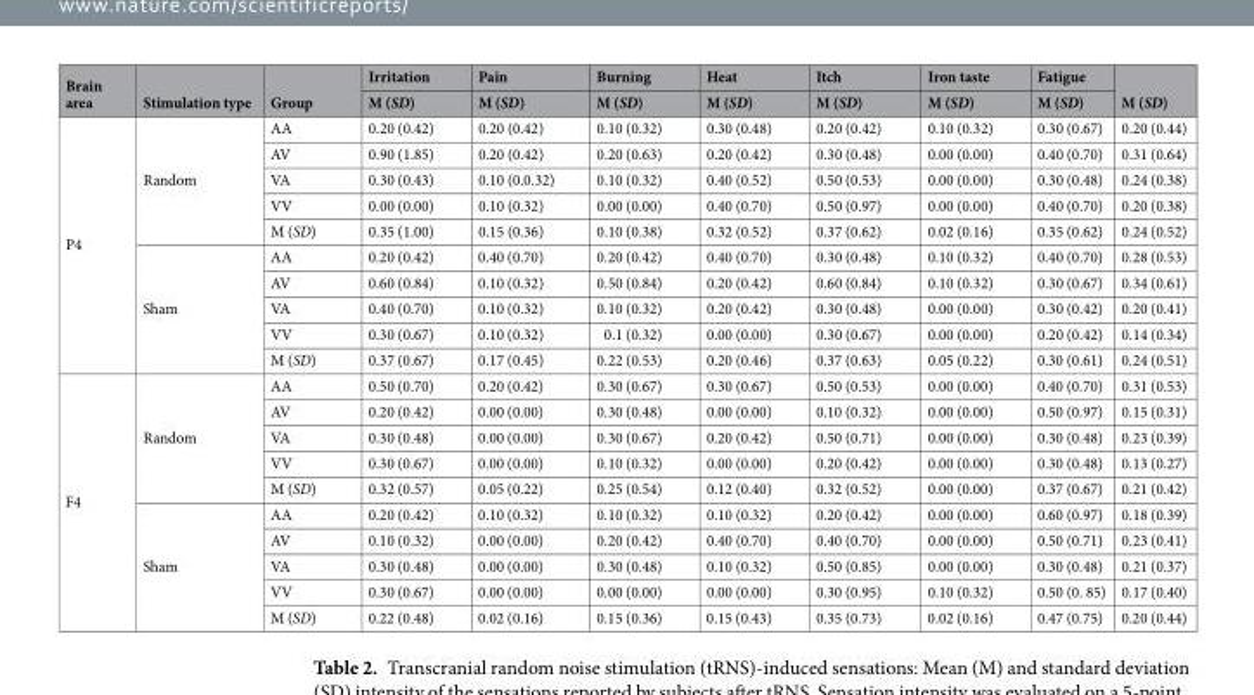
<table><thead><tr><td rowspan="2">Brain area</td><td rowspan="2">Stimulation type</td><td rowspan="2">Group</td><td rowspan="2">Irritation M (SD)</td><td rowspan="2">Pain M (SD)</td><td rowspan="2">Burning M (SD)</td><td rowspan="2">Heat M (SD)</td><td rowspan="2">Itch M (SD)</td><td rowspan="2">Iron taste M (SD)</td><td rowspan="2">Fatigue M (SD)</td><td rowspan="2">M (SD)</td></tr><tr></tr></thead><tbody><tr><td rowspan="10">P4</td><td rowspan="5">Random</td><td>AA</td><td>0.20 (0.42)</td><td>0.20 (0.42)</td><td>0.10 (0.32)</td><td>0.30 (0.48)</td><td>0.20 (0.42)</td><td>0.10 (0.32)</td><td>0.30 (0.67)</td><td>0.20 (0.44)</td></tr><tr><td>AV</td><td>0.90 (1.85)</td><td>0.20 (0.42)</td><td>0.20 (0.63)</td><td>0.20 (0.42)</td><td>0.30 (0.48)</td><td>0.00 (0.00)</td><td>0.40 (0.70)</td><td>0.31 (0.64)</td></tr><tr><td>VA</td><td>0.30 (0.43)</td><td>0.10 (0.0.32)</td><td>0.10 (0.32)</td><td>0.40 (0.52)</td><td>0.50 (0.53)</td><td>0.00 (0.00)</td><td>0.30 (0.48)</td><td>0.24 (0.38)</td></tr><tr><td>VV</td><td>0.00 (0.00)</td><td>0.10 (0.32)</td><td>0.00 (0.00)</td><td>0.40 (0.70)</td><td>0.50 (0.97)</td><td>0.00 (0.00)</td><td>0.40 (0.70)</td><td>0.20 (0.38)</td></tr><tr><td>M (SD)</td><td>0.35 (1.00)</td><td>0.15 (0.36)</td><td>0.10 (0.38)</td><td>0.32 (0.52)</td><td>0.37 (0.62)</td><td>0.02 (0.16)</td><td>0.35 (0.62)</td><td>0.24 (0.52)</td></tr><tr><td rowspan="5">Sham</td><td>AA</td><td>0.20 (0.42)</td><td>0.40 (0.70)</td><td>0.20 (0.42)</td><td>0.40 (0.70)</td><td>0.30 (0.48)</td><td>0.10 (0.32)</td><td>0.40 (0.70)</td><td>0.28 (0.53)</td></tr><tr><td>AV</td><td>0.60 (0.84)</td><td>0.10 (0.32)</td><td>0.50 (0.84)</td><td>0.20 (0.42)</td><td>0.60 (0.84)</td><td>0.10 (0.32)</td><td>0.30 (0.67)</td><td>0.34 (0.61)</td></tr><tr><td>VA</td><td>0.40 (0.70)</td><td>0.10 (0.32)</td><td>0.10 (0.32)</td><td>0.20 (0.42)</td><td>0.30 (0.48)</td><td>0.00 (0.00)</td><td>0.30 (0.42)</td><td>0.20 (0.41)</td></tr><tr><td>VV</td><td>0.30 (0.67)</td><td>0.10 (0.32)</td><td>0.1 (0.32)</td><td>0.00 (0.00)</td><td>0.30 (0.67)</td><td>0.00 (0.00)</td><td>0.20 (0.42)</td><td>0.14 (0.34)</td></tr><tr><td>M (SD)</td><td>0.37 (0.67)</td><td>0.17 (0.45)</td><td>0.22 (0.53)</td><td>0.20 (0.46)</td><td>0.37 (0.63)</td><td>0.05 (0.22)</td><td>0.30 (0.61)</td><td>0.24 (0.51)</td></tr><tr><td rowspan="10">F4</td><td rowspan="5">Random</td><td>AA</td><td>0.50 (0.70)</td><td>0.20 (0.42)</td><td>0.30 (0.67)</td><td>0.30 (0.67)</td><td>0.50 (0.53)</td><td>0.00 (0.00)</td><td>0.40 (0.70)</td><td>0.31 (0.53)</td></tr><tr><td>AV</td><td>0.20 (0.42)</td><td>0.00 (0.00)</td><td>0.30 (0.48)</td><td>0.00 (0.00)</td><td>0.10 (0.32)</td><td>0.00 (0.00)</td><td>0.50 (0.97)</td><td>0.15 (0.31)</td></tr><tr><td>VA</td><td>0.30 (0.48)</td><td>0.00 (0.00)</td><td>0.30 (0.67)</td><td>0.20 (0.42)</td><td>0.50 (0.71)</td><td>0.00 (0.00)</td><td>0.30 (0.48)</td><td>0.23 (0.39)</td></tr><tr><td>VV</td><td>0.30 (0.67)</td><td>0.00 (0.00)</td><td>0.10 (0.32)</td><td>0.00 (0.00)</td><td>0.20 (0.42)</td><td>0.00 (0.00)</td><td>0.30 (0.48)</td><td>0.13 (0.27)</td></tr><tr><td>M (SD)</td><td>0.32 (0.57)</td><td>0.05 (0.22)</td><td>0.25 (0.54)</td><td>0.12 (0.40)</td><td>0.32 (0.52)</td><td>0.00 (0.00)</td><td>0.37 (0.67)</td><td>0.21 (0.42)</td></tr><tr><td rowspan="5">Sham</td><td>AA</td><td>0.20 (0.42)</td><td>0.10 (0.32)</td><td>0.10 (0.32)</td><td>0.10 (0.32)</td><td>0.20 (0.42)</td><td>0.00 (0.00)</td><td>0.60 (0.97)</td><td>0.18 (0.39)</td></tr><tr><td>AV</td><td>0.10 (0.32)</td><td>0.00 (0.00)</td><td>0.20 (0.42)</td><td>0.40 (0.70)</td><td>0.40 (0.70)</td><td>0.00 (0.00)</td><td>0.50 (0.71)</td><td>0.23 (0.41)</td></tr><tr><td>VA</td><td>0.30 (0.48)</td><td>0.00 (0.00)</td><td>0.30 (0.48)</td><td>0.10 (0.32)</td><td>0.50 (0.85)</td><td>0.00 (0.00)</td><td>0.30 (0.48)</td><td>0.21 (0.37)</td></tr><tr><td>VV</td><td>0.30 (0.67)</td><td>0.00 (0.00)</td><td>0.00 (0.00)</td><td>0.00 (0.00)</td><td>0.30 (0.95)</td><td>0.10 (0.32)</td><td>0.50 (0. 85)</td><td>0.17 (0.40)</td></tr><tr><td>M (SD)</td><td>0.22 (0.48)</td><td>0.02 (0.16)</td><td>0.15 (0.36)</td><td>0.15 (0.43)</td><td>0.35 (0.73)</td><td>0.02 (0.16)</td><td>0.47 (0.75)</td><td>0.20 (0.44)</td></tr></tbody></table>